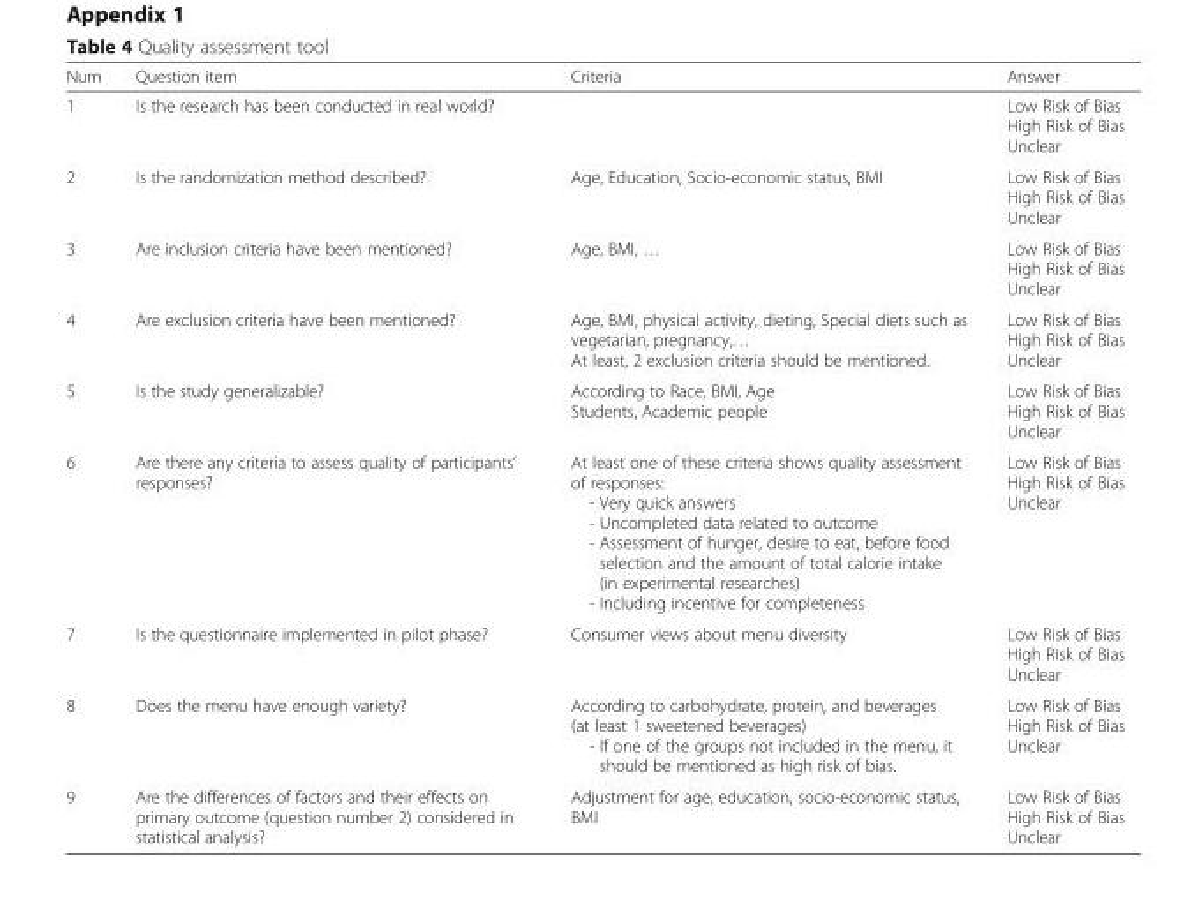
<table><thead><tr><td>Num</td><td>Question item</td><td>Criteria</td><td>Answer</td></tr></thead><tbody><tr><td>1</td><td>Is the research has been conducted in real world?</td><td></td><td>Low Risk of Bias High Risk of Bias Unclear</td></tr><tr><td>2</td><td>Is the randomization method described?</td><td>Age, Education, Socio-economic status, BMI</td><td>Low Risk of Bias High Risk of Bias Unclear</td></tr><tr><td>3</td><td>Are inclusion criteria have been mentioned?</td><td>Age, BMI, …</td><td>Low Risk of Bias High Risk of Bias Unclear</td></tr><tr><td>4</td><td>Are exclusion criteria have been mentioned?</td><td>Age, BMI, physical activity, dieting, Special diets such as vegetarian, pregnancy,… At least, 2 exclusion criteria should be mentioned.</td><td>Low Risk of Bias High Risk of Bias Unclear</td></tr><tr><td>5</td><td>Is the study generalizable?</td><td>According to Race, BMI, Age Students, Academic people</td><td>Low Risk of Bias High Risk of Bias Unclear</td></tr><tr><td>6</td><td>Are there any criteria to assess quality of participants’ responses?</td><td>At least one of these criteria shows quality assessment of responses: - Very quick answers - Uncompleted data related to outcome - Assessment of hunger, desire to eat, before food selection and the amount of total calorie intake (in experimental researches) - Including incentive for completeness</td><td>Low Risk of Bias High Risk of Bias Unclear</td></tr><tr><td>7</td><td>Is the questionnaire implemented in pilot phase?</td><td>Consumer views about menu diversity</td><td>Low Risk of Bias High Risk of Bias Unclear</td></tr><tr><td>8</td><td>Does the menu have enough variety?</td><td>According to carbohydrate, protein, and beverages (at least 1 sweetened beverages) - If one of the groups not included in the menu, it should be mentioned as high risk of bias.</td><td>Low Risk of Bias High Risk of Bias Unclear</td></tr><tr><td>9</td><td>Are the differences of factors and their effects on primary outcome (question number 2) considered in statistical analysis?</td><td>Adjustment for age, education, socio-economic status, BMI</td><td>Low Risk of Bias High Risk of Bias Unclear</td></tr></tbody></table>